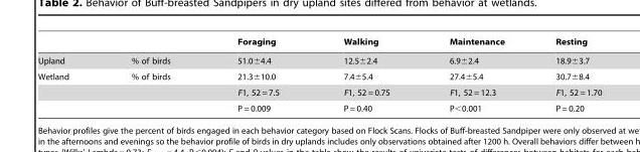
<table><thead><tr><td></td><td></td><td>Foraging</td><td>Walking</td><td>Maintenance</td><td>Resting</td></tr></thead><tbody><tr><td>Upland</td><td>% of birds</td><td>51.0±4.4</td><td>12.5±2.4</td><td>6.9±2.4</td><td>18.9±3.7</td></tr><tr><td rowspan="3">Wetland</td><td>% of birds</td><td>21.3±10.0</td><td>7.4±5.4</td><td>27.4±5.4</td><td>30.7±8.4</td></tr><tr><td></td><td>F1, 52 = 7.5</td><td>F1, 52 = 0.75</td><td>F1, 52 = 12.3</td><td>F1, 52 = 1.70</td></tr><tr><td></td><td>P = 0.009</td><td>P = 0.40</td><td>P&lt;0.001</td><td>P = 0.20</td></tr></tbody></table>